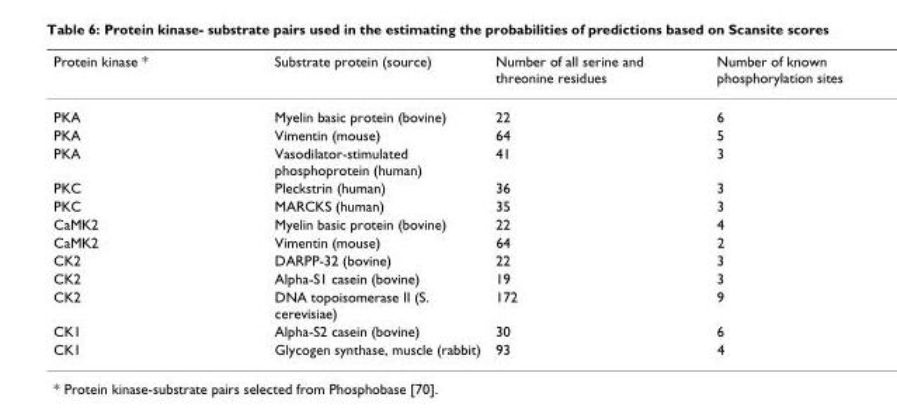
<table><thead><tr><td>Protein kinase *</td><td>Substrate protein (source)</td><td>Number of all serine and threonine residues</td><td>Number of known phosphorylation sites</td></tr></thead><tbody><tr><td>PKA</td><td>Myelin basic protein (bovine)</td><td>22</td><td>6</td></tr><tr><td>PKA</td><td>Vimentin (mouse)</td><td>64</td><td>5</td></tr><tr><td>PKA</td><td>Vasodilator-stimulated phosphoprotein (human)</td><td>41</td><td>3</td></tr><tr><td>PKC</td><td>Pleckstrin (human)</td><td>36</td><td>3</td></tr><tr><td>PKC</td><td>MARCKS (human)</td><td>35</td><td>3</td></tr><tr><td>CaMK2</td><td>Myelin basic protein (bovine)</td><td>22</td><td>4</td></tr><tr><td>CaMK2</td><td>Vimentin (mouse)</td><td>64</td><td>2</td></tr><tr><td>CK2</td><td>DARPP-32 (bovine)</td><td>22</td><td>3</td></tr><tr><td>CK2</td><td>Alpha-S1 casein (bovine)</td><td>19</td><td>3</td></tr><tr><td>CK2</td><td>DNA topoisomerase II (S. cerevisiae)</td><td>172</td><td>9</td></tr><tr><td>CK1</td><td>Alpha-S2 casein (bovine)</td><td>30</td><td>6</td></tr><tr><td>CK1</td><td>Glycogen synthase, muscle (rabbit)</td><td>93</td><td>4</td></tr></tbody></table>